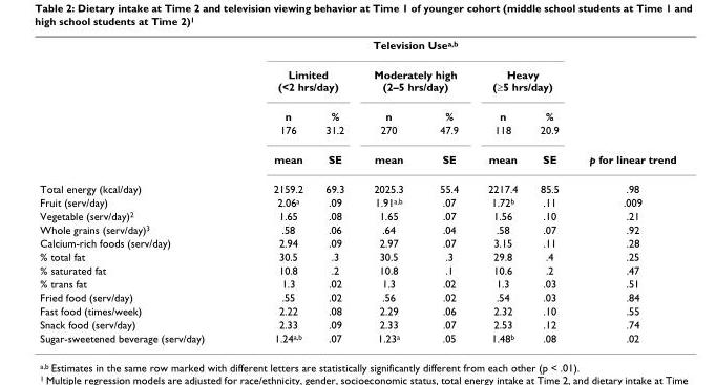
<table><thead><tr><td rowspan="3"></td><td colspan="6">Television Use<sup>a,b</sup></td><td rowspan="3"></td></tr><tr><td colspan="2">Limited (&lt;2 hrs/day)</td><td colspan="2">Moderately high (2–5 hrs/day)</td><td colspan="2">Heavy (≥5 hrs/day)</td></tr><tr><td>n</td><td>%</td><td>n</td><td>%</td><td>n</td><td>%</td></tr></thead><tbody><tr><td></td><td>176</td><td>31.2</td><td>270</td><td>47.9</td><td>118</td><td>20.9</td><td></td></tr><tr><td></td><td>mean</td><td>SE</td><td>mean</td><td>SE</td><td>mean</td><td>SE</td><td>p for linear trend</td></tr><tr><td>Total energy (kcal/day)</td><td>2159.2</td><td>69.3</td><td>2025.3</td><td>55.4</td><td>2217.4</td><td>85.5</td><td>.98</td></tr><tr><td>Fruit (serv/day)</td><td>2.06<sup>a</sup></td><td>.09</td><td>1.91<sup>a,b</sup></td><td>.07</td><td>1.72<sup>b</sup></td><td>.11</td><td>.009</td></tr><tr><td>Vegetable (serv/day)<sup>2</sup></td><td>1.65</td><td>.08</td><td>1.65</td><td>.07</td><td>1.56</td><td>.10</td><td>.21</td></tr><tr><td>Whole grains (serv/day)<sup>3</sup></td><td>.58</td><td>.06</td><td>.64</td><td>.04</td><td>.58</td><td>.07</td><td>.92</td></tr><tr><td>Calcium-rich foods (serv/day)</td><td>2.94</td><td>.09</td><td>2.97</td><td>.07</td><td>3.15</td><td>.11</td><td>.28</td></tr><tr><td>% total fat</td><td>30.5</td><td>.3</td><td>30.5</td><td>.3</td><td>29.8</td><td>.4</td><td>.25</td></tr><tr><td>% saturated fat</td><td>10.8</td><td>.2</td><td>10.8</td><td>.1</td><td>10.6</td><td>.2</td><td>.47</td></tr><tr><td>% trans fat</td><td>1.3</td><td>.02</td><td>1.3</td><td>.02</td><td>1.3</td><td>.03</td><td>.51</td></tr><tr><td>Fried food (serv/day)</td><td>.55</td><td>.02</td><td>.56</td><td>.02</td><td>.54</td><td>.03</td><td>.84</td></tr><tr><td>Fast food (times/week)</td><td>2.22</td><td>.08</td><td>2.29</td><td>.06</td><td>2.32</td><td>.10</td><td>.55</td></tr><tr><td>Snack food (serv/day)</td><td>2.33</td><td>.09</td><td>2.33</td><td>.07</td><td>2.53</td><td>.12</td><td>.74</td></tr><tr><td>Sugar-sweetened beverage (serv/day)</td><td>1.24<sup>a,b</sup></td><td>.07</td><td>1.23<sup>a</sup></td><td>.05</td><td>1.48<sup>b</sup></td><td>.08</td><td>.02</td></tr></tbody></table>